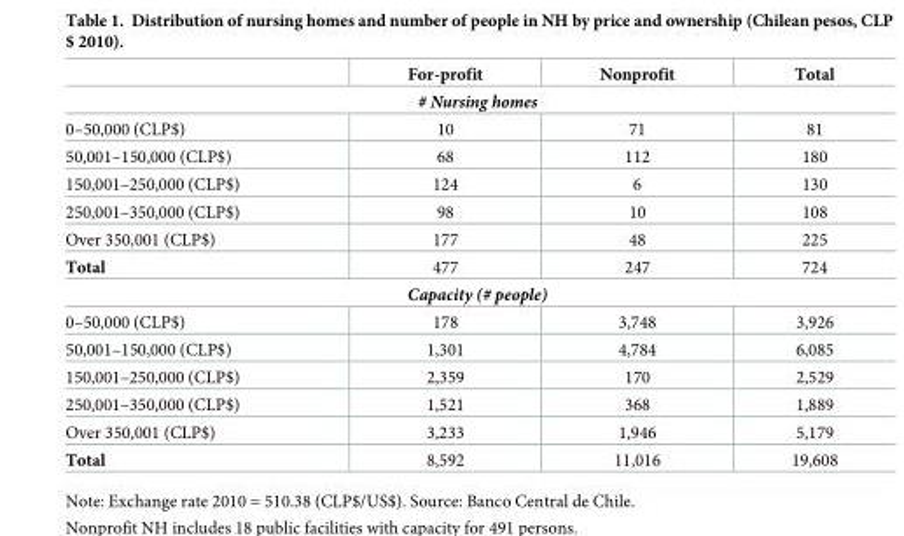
<table><thead><tr><td></td><td>For-profit</td><td>Nonprofit</td><td>Total</td></tr></thead><tbody><tr><td colspan="4"># Nursing homes</td></tr><tr><td>0–50,000 (CLP$)</td><td>10</td><td>71</td><td>81</td></tr><tr><td>50,001–150,000 (CLP$)</td><td>68</td><td>112</td><td>180</td></tr><tr><td>150,001–250,000 (CLP$)</td><td>124</td><td>6</td><td>130</td></tr><tr><td>250,001–350,000 (CLP$)</td><td>98</td><td>10</td><td>108</td></tr><tr><td>Over 350,001 (CLP$)</td><td>177</td><td>48</td><td>225</td></tr><tr><td>Total</td><td>477</td><td>247</td><td>724</td></tr><tr><td colspan="4">Capacity (# people)</td></tr><tr><td>0–50,000 (CLP$)</td><td>178</td><td>3,748</td><td>3,926</td></tr><tr><td>50,001–150,000 (CLP$)</td><td>1,301</td><td>4,784</td><td>6,085</td></tr><tr><td>150,001–250,000 (CLP$)</td><td>2,359</td><td>170</td><td>2,529</td></tr><tr><td>250,001–350,000 (CLP$)</td><td>1,521</td><td>368</td><td>1,889</td></tr><tr><td>Over 350,001 (CLP$)</td><td>3,233</td><td>1,946</td><td>5,179</td></tr><tr><td>Total</td><td>8,592</td><td>11,016</td><td>19,608</td></tr></tbody></table>